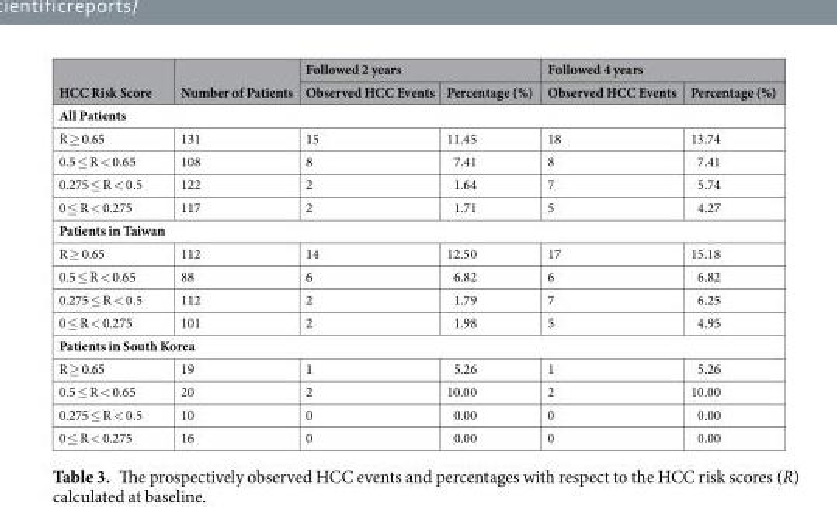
<table><thead><tr><td rowspan="2">HCC Risk Score</td><td rowspan="2">Number of Patients</td><td colspan="2">Followed 2 years</td><td colspan="2">Followed 4 years</td></tr><tr><td>Observed HCC Events</td><td>Percentage (%)</td><td>Observed HCC Events</td><td>Percentage (%)</td></tr></thead><tbody><tr><td colspan="6">All Patients</td></tr><tr><td>R ≥ 0.65</td><td>131</td><td>15</td><td>11.45</td><td>18</td><td>13.74</td></tr><tr><td>0.5 ≤ R &lt; 0.65</td><td>108</td><td>8</td><td>7.41</td><td>8</td><td>7.41</td></tr><tr><td>0.275 ≤ R &lt; 0.5</td><td>122</td><td>2</td><td>1.64</td><td>7</td><td>5.74</td></tr><tr><td>0 ≤ R &lt; 0.275</td><td>117</td><td>2</td><td>1.71</td><td>5</td><td>4.27</td></tr><tr><td colspan="6">Patients in Taiwan</td></tr><tr><td>R ≥ 0.65</td><td>112</td><td>14</td><td>12.50</td><td>17</td><td>15.18</td></tr><tr><td>0.5 ≤ R &lt; 0.65</td><td>88</td><td>6</td><td>6.82</td><td>6</td><td>6.82</td></tr><tr><td>0.275 ≤ R &lt; 0.5</td><td>112</td><td>2</td><td>1.79</td><td>7</td><td>6.25</td></tr><tr><td>0 ≤ R &lt; 0.275</td><td>101</td><td>2</td><td>1.98</td><td>5</td><td>4.95</td></tr><tr><td colspan="6">Patients in South Korea</td></tr><tr><td>R ≥ 0.65</td><td>19</td><td>1</td><td>5.26</td><td>1</td><td>5.26</td></tr><tr><td>0.5 ≤ R &lt; 0.65</td><td>20</td><td>2</td><td>10.00</td><td>2</td><td>10.00</td></tr><tr><td>0.275 ≤ R &lt; 0.5</td><td>10</td><td>0</td><td>0.00</td><td>0</td><td>0.00</td></tr><tr><td>0 ≤ R &lt; 0.275</td><td>16</td><td>0</td><td>0.00</td><td>0</td><td>0.00</td></tr></tbody></table>